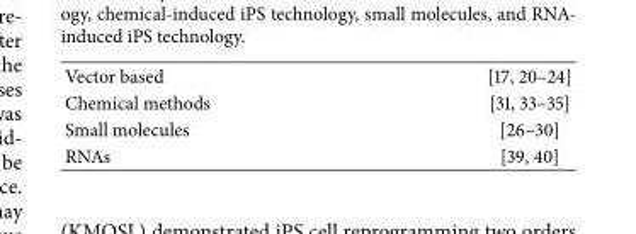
<table><tbody><tr><td>Vector based</td><td>[17, 20–24]</td></tr><tr><td>Chemical methods</td><td>[31, 33–35]</td></tr><tr><td>Small molecules</td><td>[26–30]</td></tr><tr><td>RNAs</td><td>[39, 40]</td></tr></tbody></table>